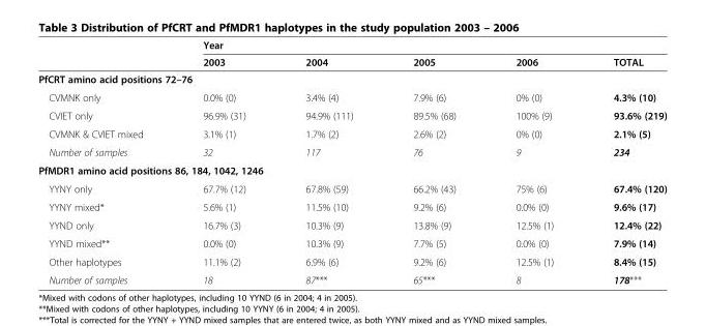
<table><thead><tr><td rowspan="2"></td><td colspan="5">Year</td></tr><tr><td>2003</td><td>2004</td><td>2005</td><td>2006</td><td>TOTAL</td></tr></thead><tbody><tr><td colspan="6">PfCRT amino acid positions 72–76</td></tr><tr><td>CVMNK only</td><td>0.0% (0)</td><td>3.4% (4)</td><td>7.9% (6)</td><td>0% (0)</td><td>4.3% (10)</td></tr><tr><td>CVIET only</td><td>96.9% (31)</td><td>94.9% (111)</td><td>89.5% (68)</td><td>100% (9)</td><td>93.6% (219)</td></tr><tr><td>CVMNK &amp; CVIET mixed</td><td>3.1% (1)</td><td>1.7% (2)</td><td>2.6% (2)</td><td>0% (0)</td><td>2.1% (5)</td></tr><tr><td>Number of samples</td><td>32</td><td>117</td><td>76</td><td>9</td><td>234</td></tr><tr><td colspan="6">PfMDR1 amino acid positions 86, 184, 1042, 1246</td></tr><tr><td>YYNY only</td><td>67.7% (12)</td><td>67.8% (59)</td><td>66.2% (43)</td><td>75% (6)</td><td>67.4% (120)</td></tr><tr><td>YYNY mixed*</td><td>5.6% (1)</td><td>11.5% (10)</td><td>9.2% (6)</td><td>0.0% (0)</td><td>9.6% (17)</td></tr><tr><td>YYND only</td><td>16.7% (3)</td><td>10.3% (9)</td><td>13.8% (9)</td><td>12.5% (1)</td><td>12.4% (22)</td></tr><tr><td>YYND mixed**</td><td>0.0% (0)</td><td>10.3% (9)</td><td>7.7% (5)</td><td>0.0% (0)</td><td>7.9% (14)</td></tr><tr><td>Other haplotypes</td><td>11.1% (2)</td><td>6.9% (6)</td><td>9.2% (6)</td><td>12.5% (1)</td><td>8.4% (15)</td></tr><tr><td>Number of samples</td><td>18</td><td>87***</td><td>65***</td><td>8</td><td>178***</td></tr></tbody></table>